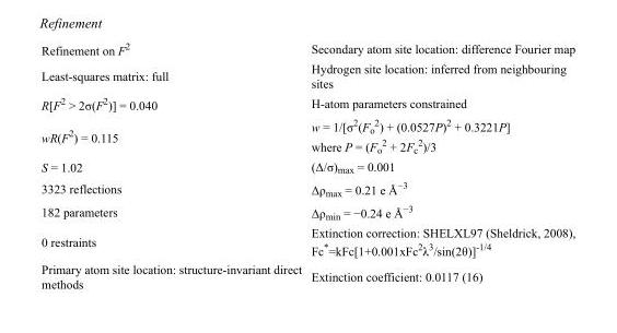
<table><tbody><tr><td>Refinement on F<sup>2</sup></td><td>Secondary atom site location: difference Fourier map</td></tr><tr><td>Least-squares matrix: full</td><td>Hydrogen site location: inferred from neighbouring sites</td></tr><tr><td>R[F<sup>2</sup> &gt; 2σ(F<sup>2</sup>)] = 0.040</td><td>H-atom parameters constrained</td></tr><tr><td>wR(F<sup>2</sup>) = 0.115</td><td>w = 1/[σ<sup>2</sup>(F<sub>o</sub> <sup>2</sup>) + (0.0527P)<sup>2</sup> + 0.3221P] where P = (F<sub>o</sub> <sup>2</sup> + 2F<sub>c</sub> <sup>2</sup>)/3</td></tr><tr><td>S = 1.02</td><td>(Δ/σ)<sub>max</sub> = 0.001</td></tr><tr><td>3323 reflections</td><td>Δρ<sub>max</sub> = 0.21 e Å<sup>−3</sup></td></tr><tr><td>182 parameters</td><td>Δρ<sub>min</sub> = −0.24 e Å<sup>−3</sup></td></tr><tr><td>0 restraints</td><td>Extinction correction: SHELXL97 (Sheldrick, 2008), Fc*=kFc[1+0.001xFc<sup>2</sup>λ<sup>3</sup>/sin(2θ)]<sup>-1/4</sup></td></tr><tr><td>Primary atom site location: structure-invariant direct methods</td><td>Extinction coefficient: 0.0117 (16)</td></tr></tbody></table>